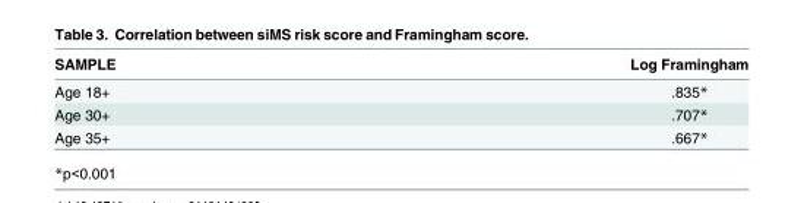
<table><thead><tr><td>SAMPLE</td><td>Log Framingham</td></tr></thead><tbody><tr><td>Age 18+</td><td>.835*</td></tr><tr><td>Age 30+</td><td>.707*</td></tr><tr><td>Age 35+</td><td>.667*</td></tr></tbody></table>